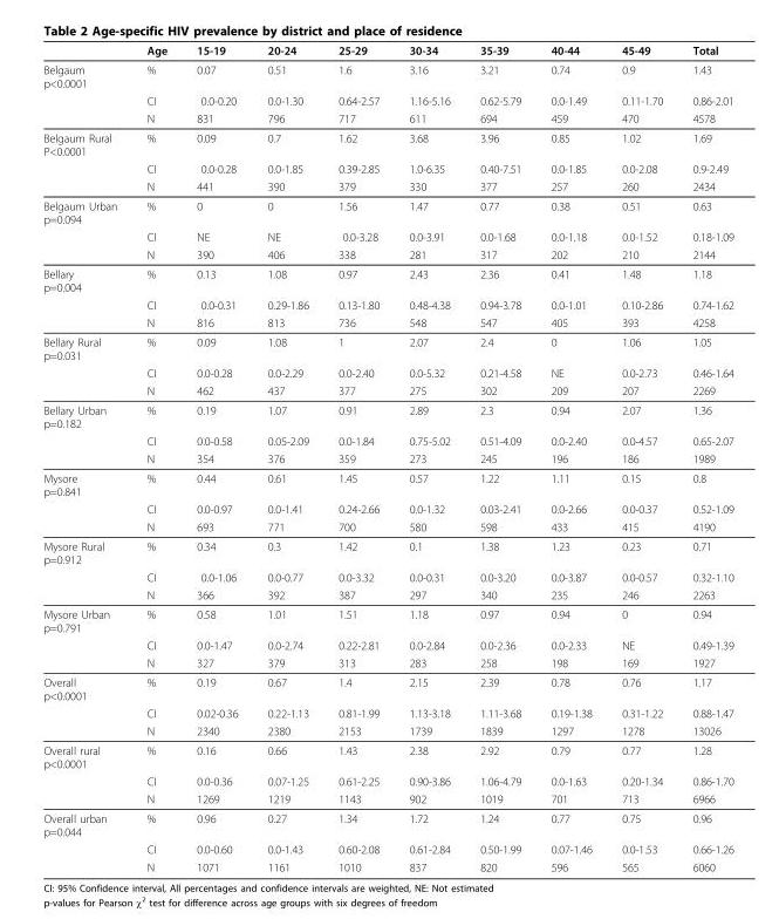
<table><thead><tr><td></td><td>Age</td><td>15-19</td><td>20-24</td><td>25-29</td><td>30-34</td><td>35-39</td><td>40-44</td><td>45-49</td><td>Total</td></tr></thead><tbody><tr><td rowspan="3">Belgaum p&lt;0.0001</td><td>%</td><td>0.07</td><td>0.51</td><td>1.6</td><td>3.16</td><td>3.21</td><td>0.74</td><td>0.9</td><td>1.43</td></tr><tr><td>CI</td><td>0.0-0.20</td><td>0.0-1.30</td><td>0.64-2.57</td><td>1.16-5.16</td><td>0.62-5.79</td><td>0.0-1.49</td><td>0.11-1.70</td><td>0.86-2.01</td></tr><tr><td>N</td><td>831</td><td>796</td><td>717</td><td>611</td><td>694</td><td>459</td><td>470</td><td>4578</td></tr><tr><td rowspan="3">Belgaum Rural P&lt;0.0001</td><td>%</td><td>0.09</td><td>0.7</td><td>1.62</td><td>3.68</td><td>3.96</td><td>0.85</td><td>1.02</td><td>1.69</td></tr><tr><td>CI</td><td>0.0-0.28</td><td>0.0-1.85</td><td>0.39-2.85</td><td>1.0-6.35</td><td>0.40-7.51</td><td>0.0-1.85</td><td>0.0-2.08</td><td>0.9-2.49</td></tr><tr><td>N</td><td>441</td><td>390</td><td>379</td><td>330</td><td>377</td><td>257</td><td>260</td><td>2434</td></tr><tr><td rowspan="3">Belgaum Urban p=0.094</td><td>%</td><td>0</td><td>0</td><td>1.56</td><td>1.47</td><td>0.77</td><td>0.38</td><td>0.51</td><td>0.63</td></tr><tr><td>CI</td><td>NE</td><td>NE</td><td>0.0-3.28</td><td>0.0-3.91</td><td>0.0-1.68</td><td>0.0-1.18</td><td>0.0-1.52</td><td>0.18-1.09</td></tr><tr><td>N</td><td>390</td><td>406</td><td>338</td><td>281</td><td>317</td><td>202</td><td>210</td><td>2144</td></tr><tr><td rowspan="3">Bellary p=0.004</td><td>%</td><td>0.13</td><td>1.08</td><td>0.97</td><td>2.43</td><td>2.36</td><td>0.41</td><td>1.48</td><td>1.18</td></tr><tr><td>CI</td><td>0.0-0.31</td><td>0.29-1.86</td><td>0.13-1.80</td><td>0.48-4.38</td><td>0.94-3.78</td><td>0.0-1.01</td><td>0.10-2.86</td><td>0.74-1.62</td></tr><tr><td>N</td><td>816</td><td>813</td><td>736</td><td>548</td><td>547</td><td>405</td><td>393</td><td>4258</td></tr><tr><td rowspan="3">Bellary Rural p=0.031</td><td>%</td><td>0.09</td><td>1.08</td><td>1</td><td>2.07</td><td>2.4</td><td>0</td><td>1.06</td><td>1.05</td></tr><tr><td>CI</td><td>0.0-0.28</td><td>0.0-2.29</td><td>0.0-2.40</td><td>0.0-5.32</td><td>0.21-4.58</td><td>NE</td><td>0.0-2.73</td><td>0.46-1.64</td></tr><tr><td>N</td><td>462</td><td>437</td><td>377</td><td>275</td><td>302</td><td>209</td><td>207</td><td>2269</td></tr><tr><td rowspan="3">Bellary Urban p=0.182</td><td>%</td><td>0.19</td><td>1.07</td><td>0.91</td><td>2.89</td><td>2.3</td><td>0.94</td><td>2.07</td><td>1.36</td></tr><tr><td>CI</td><td>0.0-0.58</td><td>0.05-2.09</td><td>0.0-1.84</td><td>0.75-5.02</td><td>0.51-4.09</td><td>0.0-2.40</td><td>0.0-4.57</td><td>0.65-2.07</td></tr><tr><td>N</td><td>354</td><td>376</td><td>359</td><td>273</td><td>245</td><td>196</td><td>186</td><td>1989</td></tr><tr><td rowspan="3">Mysore p=0.841</td><td>%</td><td>0.44</td><td>0.61</td><td>1.45</td><td>0.57</td><td>1.22</td><td>1.11</td><td>0.15</td><td>0.8</td></tr><tr><td>CI</td><td>0.0-0.97</td><td>0.0-1.41</td><td>0.24-2.66</td><td>0.0-1.32</td><td>0.03-2.41</td><td>0.0-2.66</td><td>0.0-0.37</td><td>0.52-1.09</td></tr><tr><td>N</td><td>693</td><td>771</td><td>700</td><td>580</td><td>598</td><td>433</td><td>415</td><td>4190</td></tr><tr><td rowspan="3">Mysore Rural p=0.912</td><td>%</td><td>0.34</td><td>0.3</td><td>1.42</td><td>0.1</td><td>1.38</td><td>1.23</td><td>0.23</td><td>0.71</td></tr><tr><td>CI</td><td>0.0-1.06</td><td>0.0-0.77</td><td>0.0-3.32</td><td>0.0-0.31</td><td>0.0-3.20</td><td>0.0-3.87</td><td>0.0-0.57</td><td>0.32-1.10</td></tr><tr><td>N</td><td>366</td><td>392</td><td>387</td><td>297</td><td>340</td><td>235</td><td>246</td><td>2263</td></tr><tr><td rowspan="3">Mysore Urban p=0.791</td><td>%</td><td>0.58</td><td>1.01</td><td>1.51</td><td>1.18</td><td>0.97</td><td>0.94</td><td>0</td><td>0.94</td></tr><tr><td>CI</td><td>0.0-1.47</td><td>0.0-2.74</td><td>0.22-2.81</td><td>0.0-2.84</td><td>0.0-2.36</td><td>0.0-2.33</td><td>NE</td><td>0.49-1.39</td></tr><tr><td>N</td><td>327</td><td>379</td><td>313</td><td>283</td><td>258</td><td>198</td><td>169</td><td>1927</td></tr><tr><td rowspan="3">Overall p&lt;0.0001</td><td>%</td><td>0.19</td><td>0.67</td><td>1.4</td><td>2.15</td><td>2.39</td><td>0.78</td><td>0.76</td><td>1.17</td></tr><tr><td>CI</td><td>0.02-0.36</td><td>0.22-1.13</td><td>0.81-1.99</td><td>1.13-3.18</td><td>1.11-3.68</td><td>0.19-1.38</td><td>0.31-1.22</td><td>0.88-1.47</td></tr><tr><td>N</td><td>2340</td><td>2380</td><td>2153</td><td>1739</td><td>1839</td><td>1297</td><td>1278</td><td>13026</td></tr><tr><td rowspan="3">Overall rural p&lt;0.0001</td><td>%</td><td>0.16</td><td>0.66</td><td>1.43</td><td>2.38</td><td>2.92</td><td>0.79</td><td>0.77</td><td>1.28</td></tr><tr><td>CI</td><td>0.0-0.36</td><td>0.07-1.25</td><td>0.61-2.25</td><td>0.90-3.86</td><td>1.06-4.79</td><td>0.0-1.63</td><td>0.20-1.34</td><td>0.86-1.70</td></tr><tr><td>N</td><td>1269</td><td>1219</td><td>1143</td><td>902</td><td>1019</td><td>701</td><td>713</td><td>6966</td></tr><tr><td rowspan="3">Overall urban p=0.044</td><td>%</td><td>0.96</td><td>0.27</td><td>1.34</td><td>1.72</td><td>1.24</td><td>0.77</td><td>0.75</td><td>0.96</td></tr><tr><td>CI</td><td>0.0-0.60</td><td>0.0-1.43</td><td>0.60-2.08</td><td>0.61-2.84</td><td>0.50-1.99</td><td>0.07-1.46</td><td>0.0-1.53</td><td>0.66-1.26</td></tr><tr><td>N</td><td>1071</td><td>1161</td><td>1010</td><td>837</td><td>820</td><td>596</td><td>565</td><td>6060</td></tr></tbody></table>